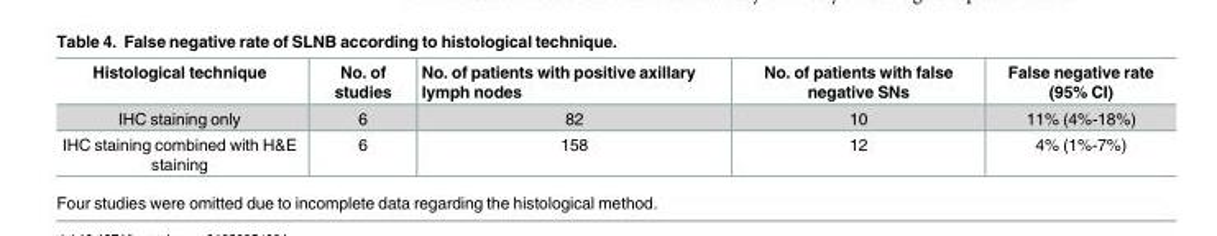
<table><thead><tr><td>Histological technique</td><td>No. of studies</td><td>No. of patients with positive axillary lymph nodes</td><td>No. of patients with false negative SNs</td><td>False negative rate (95% CI)</td></tr></thead><tbody><tr><td>IHC staining only</td><td>6</td><td>82</td><td>10</td><td>11% (4%-18%)</td></tr><tr><td>IHC staining combined with H&amp;E staining</td><td>6</td><td>158</td><td>12</td><td>4% (1%-7%)</td></tr></tbody></table>